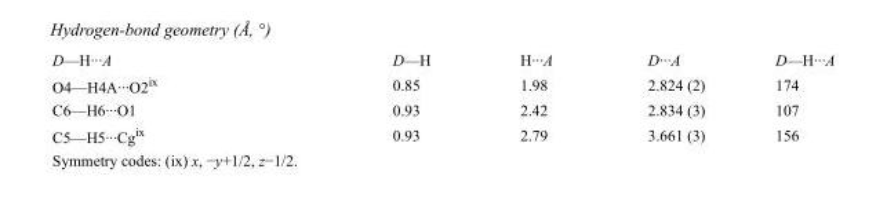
<table><tbody><tr><td>D—H···A</td><td>D—H</td><td>H···A</td><td>D···A</td><td>D—H···A</td></tr><tr><td>O4—H4A···O2<sup>ix</sup></td><td>0.85</td><td>1.98</td><td>2.824 (2)</td><td>174</td></tr><tr><td>C6—H6···O1</td><td>0.93</td><td>2.42</td><td>2.834 (3)</td><td>107</td></tr><tr><td>C5—H5···Cg<sup>ix</sup></td><td>0.93</td><td>2.79</td><td>3.661 (3)</td><td>156</td></tr></tbody></table>